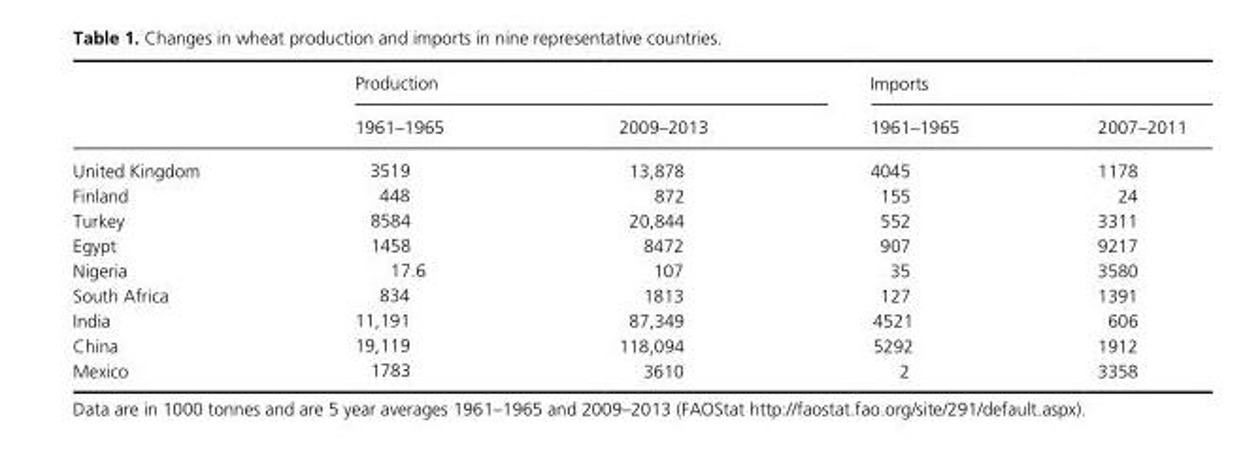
<table><thead><tr><td rowspan="2"></td><td colspan="2">Production</td><td colspan="2">Imports</td></tr><tr><td>1961–1965</td><td>2009–2013</td><td>1961–1965</td><td>2007–2011</td></tr></thead><tbody><tr><td>United Kingdom</td><td>3519</td><td>13,878</td><td>4045</td><td>1178</td></tr><tr><td>Finland</td><td>448</td><td>872</td><td>155</td><td>24</td></tr><tr><td>Turkey</td><td>8584</td><td>20,844</td><td>552</td><td>3311</td></tr><tr><td>Egypt</td><td>1458</td><td>8472</td><td>907</td><td>9217</td></tr><tr><td>Nigeria</td><td>17.6</td><td>107</td><td>35</td><td>3580</td></tr><tr><td>South Africa</td><td>834</td><td>1813</td><td>127</td><td>1391</td></tr><tr><td>India</td><td>11,191</td><td>87,349</td><td>4521</td><td>606</td></tr><tr><td>China</td><td>19,119</td><td>118,094</td><td>5292</td><td>1912</td></tr><tr><td>Mexico</td><td>1783</td><td>3610</td><td>2</td><td>3358</td></tr></tbody></table>